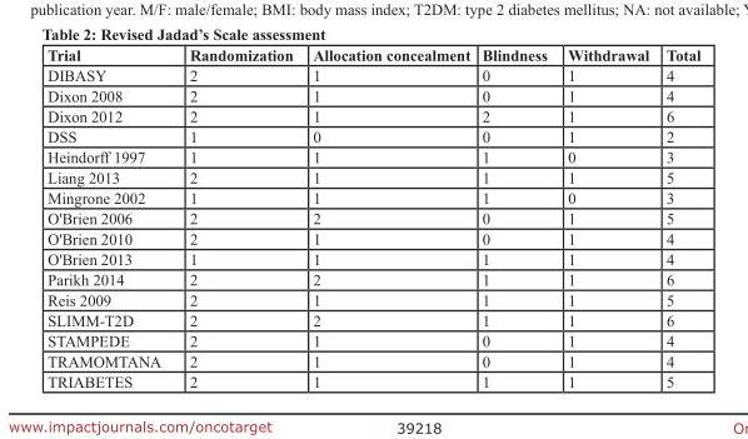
<table><thead><tr><td>trial</td><td>randomization</td><td>Allocation concealment</td><td>blindness</td><td>Withdrawal</td><td>total</td></tr></thead><tbody><tr><td>DIBASY</td><td>2</td><td>1</td><td>0</td><td>1</td><td>4</td></tr><tr><td>Dixon 2008</td><td>2</td><td>1</td><td>0</td><td>1</td><td>4</td></tr><tr><td>Dixon 2012</td><td>2</td><td>1</td><td>2</td><td>1</td><td>6</td></tr><tr><td>DSS</td><td>1</td><td>0</td><td>0</td><td>1</td><td>2</td></tr><tr><td>Heindorff 1997</td><td>1</td><td>1</td><td>1</td><td>0</td><td>3</td></tr><tr><td>Liang 2013</td><td>2</td><td>1</td><td>1</td><td>1</td><td>5</td></tr><tr><td>Mingrone 2002</td><td>1</td><td>1</td><td>1</td><td>0</td><td>3</td></tr><tr><td>O&#x27;Brien 2006</td><td>2</td><td>2</td><td>0</td><td>1</td><td>5</td></tr><tr><td>O&#x27;Brien 2010</td><td>2</td><td>1</td><td>0</td><td>1</td><td>4</td></tr><tr><td>O&#x27;Brien 2013</td><td>1</td><td>1</td><td>1</td><td>1</td><td>4</td></tr><tr><td>Parikh 2014</td><td>2</td><td>2</td><td>1</td><td>1</td><td>6</td></tr><tr><td>Reis 2009</td><td>2</td><td>1</td><td>1</td><td>1</td><td>5</td></tr><tr><td>SLIMM-T2D</td><td>2</td><td>2</td><td>1</td><td>1</td><td>6</td></tr><tr><td>STAMPEDE</td><td>2</td><td>1</td><td>0</td><td>1</td><td>4</td></tr><tr><td>TRAMOMTANA</td><td>2</td><td>1</td><td>0</td><td>1</td><td>4</td></tr><tr><td>TRIABETES</td><td>2</td><td>1</td><td>1</td><td>1</td><td>5</td></tr></tbody></table>